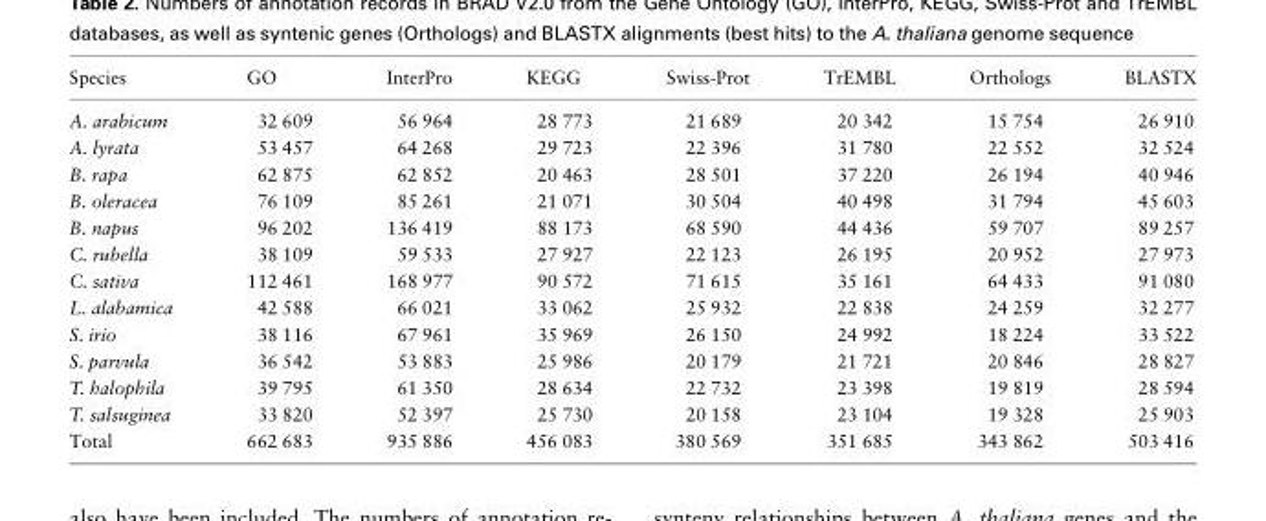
<table><thead><tr><td>Species</td><td>GO</td><td>InterPro</td><td>KEGG</td><td>Swiss-Prot</td><td>TrEMBL</td><td>Orthologs</td><td>BLASTX</td></tr></thead><tbody><tr><td>A. arabicum</td><td>32 609</td><td>56 964</td><td>28 773</td><td>21 689</td><td>20 342</td><td>15 754</td><td>26 910</td></tr><tr><td>A. lyrata</td><td>53 457</td><td>64 268</td><td>29 723</td><td>22 396</td><td>31 780</td><td>22 552</td><td>32 524</td></tr><tr><td>B. rapa</td><td>62 875</td><td>62 852</td><td>20 463</td><td>28 501</td><td>37 220</td><td>26 194</td><td>40 946</td></tr><tr><td>B. oleracea</td><td>76 109</td><td>85 261</td><td>21 071</td><td>30 504</td><td>40 498</td><td>31 794</td><td>45 603</td></tr><tr><td>B. napus</td><td>96 202</td><td>136 419</td><td>88 173</td><td>68 590</td><td>44 436</td><td>59 707</td><td>89 257</td></tr><tr><td>C. rubella</td><td>38 109</td><td>59 533</td><td>27 927</td><td>22 123</td><td>26 195</td><td>20 952</td><td>27 973</td></tr><tr><td>C. sativa</td><td>112 461</td><td>168 977</td><td>90 572</td><td>71 615</td><td>35 161</td><td>64 433</td><td>91 080</td></tr><tr><td>L. alabamica</td><td>42 588</td><td>66 021</td><td>33 062</td><td>25 932</td><td>22 838</td><td>24 259</td><td>32 277</td></tr><tr><td>S. irio</td><td>38 116</td><td>67 961</td><td>35 969</td><td>26 150</td><td>24 992</td><td>18 224</td><td>33 522</td></tr><tr><td>S. parvula</td><td>36 542</td><td>53 883</td><td>25 986</td><td>20 179</td><td>21 721</td><td>20 846</td><td>28 827</td></tr><tr><td>T. halophila</td><td>39 795</td><td>61 350</td><td>28 634</td><td>22 732</td><td>23 398</td><td>19 819</td><td>28 594</td></tr><tr><td>T. salsuginea</td><td>33 820</td><td>52 397</td><td>25 730</td><td>20 158</td><td>23 104</td><td>19 328</td><td>25 903</td></tr><tr><td>Total</td><td>662 683</td><td>935 886</td><td>456 083</td><td>380 569</td><td>351 685</td><td>343 862</td><td>503 416</td></tr></tbody></table>